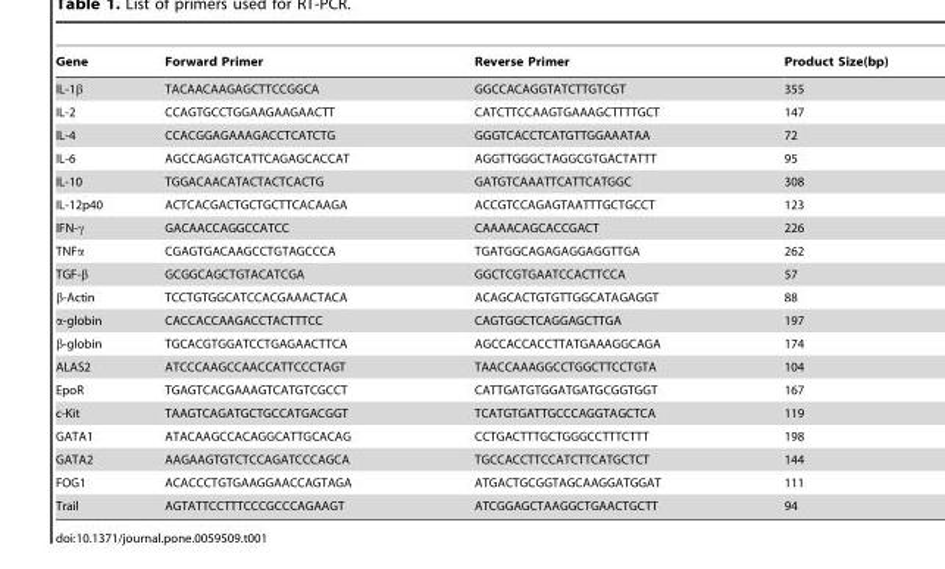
<table><thead><tr><td>Gene</td><td>Forward Primer</td><td>Reverse Primer</td><td>Product Size(bp)</td></tr></thead><tbody><tr><td>IL-1β</td><td>TACAACAAGAGCTTCCGGCA</td><td>GGCCACAGGTATCTTGTCGT</td><td>355</td></tr><tr><td>IL-2</td><td>CCAGTGCCTGGAAGAAGAACTT</td><td>CATCTTCCAAGTGAAAGCTTTTGCT</td><td>147</td></tr><tr><td>IL-4</td><td>CCACGGAGAAAGACCTCATCTG</td><td>GGGTCACCTCATGTTGGAAATAA</td><td>72</td></tr><tr><td>IL-6</td><td>AGCCAGAGTCATTCAGAGCACCAT</td><td>AGGTTGGGCTAGGCGTGACTATTT</td><td>95</td></tr><tr><td>IL-10</td><td>TGGACAACATACTACTCACTG</td><td>GATGTCAAATTCATTCATGGC</td><td>308</td></tr><tr><td>IL-12p40</td><td>ACTCACGACTGCTGCTTCACAAGA</td><td>ACCGTCCAGAGTAATTTGCTGCCT</td><td>123</td></tr><tr><td>IFN-γ</td><td>GACAACCAGGCCATCC</td><td>CAAAACAGCACCGACT</td><td>226</td></tr><tr><td>TNFα</td><td>CGAGTGACAAGCCTGTAGCCCA</td><td>TGATGGCAGAGAGGAGGTTGA</td><td>262</td></tr><tr><td>TGF-β</td><td>GCGGCAGCTGTACATCGA</td><td>GGCTCGTGAATCCACTTCCA</td><td>57</td></tr><tr><td>β-Actin</td><td>TCCTGTGGCATCCACGAAACTACA</td><td>ACAGCACTGTGTTGGCATAGAGGT</td><td>88</td></tr><tr><td>α-globin</td><td>CACCACCAAGACCTACTTTCC</td><td>CAGTGGCTCAGGAGCTTGA</td><td>197</td></tr><tr><td>β-globin</td><td>TGCACGTGGATCCTGAGAACTTCA</td><td>AGCCACCACCTTATGAAAGGCAGA</td><td>174</td></tr><tr><td>ALAS2</td><td>ATCCCAAGCCAACCATTCCCTAGT</td><td>TAACCAAAGGCCTGGCTTCCTGTA</td><td>104</td></tr><tr><td>EpoR</td><td>TGAGTCACGAAAGTCATGTCGCCT</td><td>CATTGATGTGGATGATGCGGTGGT</td><td>167</td></tr><tr><td>c-Kit</td><td>TAAGTCAGATGCTGCCATGACGGT</td><td>TCATGTGATTGCCCAGGTAGCTCA</td><td>119</td></tr><tr><td>GATA1</td><td>ATACAAGCCACAGGCATTGCACAG</td><td>CCTGACTTTGCTGGGCCTTTCTTT</td><td>198</td></tr><tr><td>GATA2</td><td>AAGAAGTGTCTCCAGATCCCAGCA</td><td>TGCCACCTTCCATCTTCATGCTCT</td><td>144</td></tr><tr><td>FOG1</td><td>ACACCCTGTGAAGGAACCAGTAGA</td><td>ATGACTGCGGTAGCAAGGATGGAT</td><td>111</td></tr><tr><td>Trail</td><td>AGTATTCCTTTCCCGCCCAGAAGT</td><td>ATCGGAGCTAAGGCTGAACTGCTT</td><td>94</td></tr></tbody></table>